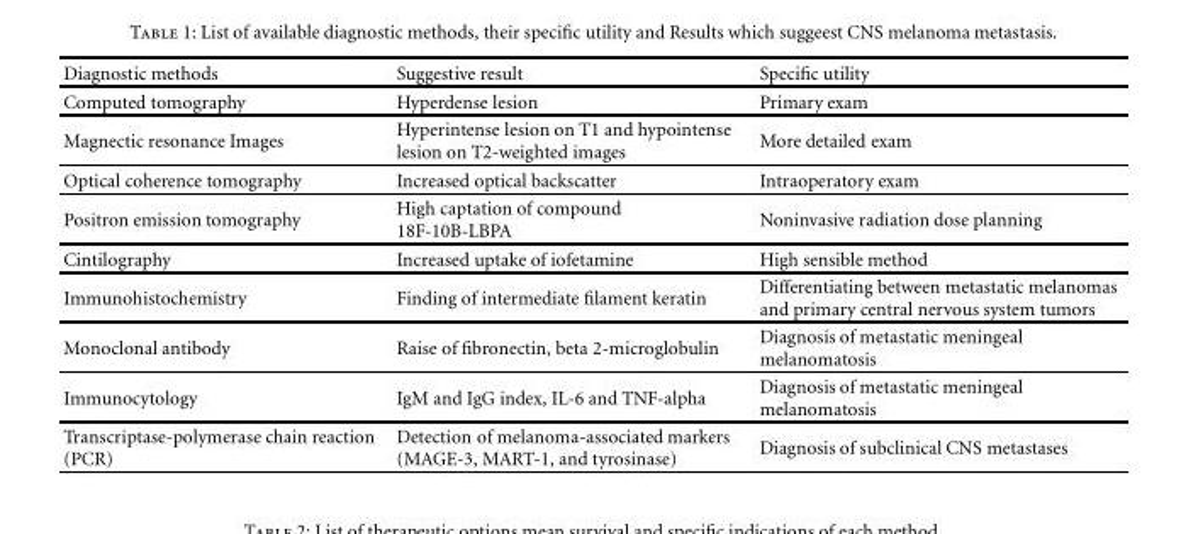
<table><thead><tr><td>Diagnostic methods</td><td>Suggestive result</td><td>Specific utility</td></tr></thead><tbody><tr><td>Computed tomography</td><td>Hyperdense lesion</td><td>Primary exam</td></tr><tr><td>Magnectic resonance Images</td><td>Hyperintense lesion on T1 and hypointense lesion on T2-weighted images</td><td>More detailed exam</td></tr><tr><td>Optical coherence tomography</td><td>Increased optical backscatter</td><td>Intraoperatory exam</td></tr><tr><td>Positron emission tomography</td><td>High captation of compound 18F-10B-LBPA</td><td>Noninvasive radiation dose planning</td></tr><tr><td>Cintilography</td><td>Increased uptake of iofetamine</td><td>High sensible method</td></tr><tr><td>Immunohistochemistry</td><td>Finding of intermediate filament keratin</td><td>Differentiating between metastatic melanomas and primary central nervous system tumors</td></tr><tr><td>Monoclonal antibody</td><td>Raise of fibronectin, beta 2-microglobulin</td><td>Diagnosis of metastatic meningeal melanomatosis</td></tr><tr><td>Immunocytology</td><td>IgM and IgG index, IL-6 and TNF-alpha</td><td>Diagnosis of metastatic meningeal melanomatosis</td></tr><tr><td>Transcriptase-polymerase chain reaction (PCR)</td><td>Detection of melanoma-associated markers (MAGE-3, MART-1, and tyrosinase)</td><td>Diagnosis of subclinical CNS metastases</td></tr></tbody></table>